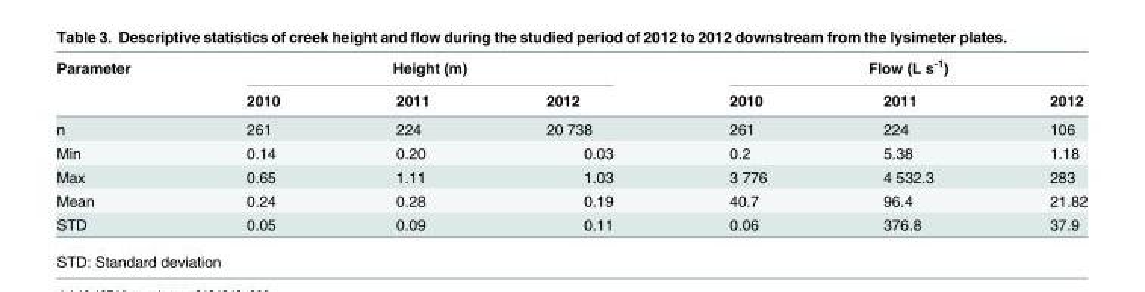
<table><thead><tr><td rowspan="2">Parameter</td><td colspan="3">Height (m)</td><td colspan="3">Flow (L s<sup>-1</sup>)</td></tr><tr><td>2010</td><td>2011</td><td>2012</td><td>2010</td><td>2011</td><td>2012</td></tr></thead><tbody><tr><td>n</td><td>261</td><td>224</td><td>20 738</td><td>261</td><td>224</td><td>106</td></tr><tr><td>Min</td><td>0.14</td><td>0.20</td><td>0.03</td><td>0.2</td><td>5.38</td><td>1.18</td></tr><tr><td>Max</td><td>0.65</td><td>1.11</td><td>1.03</td><td>3 776</td><td>4 532.3</td><td>283</td></tr><tr><td>Mean</td><td>0.24</td><td>0.28</td><td>0.19</td><td>40.7</td><td>96.4</td><td>21.82</td></tr><tr><td>STD</td><td>0.05</td><td>0.09</td><td>0.11</td><td>0.06</td><td>376.8</td><td>37.9</td></tr></tbody></table>